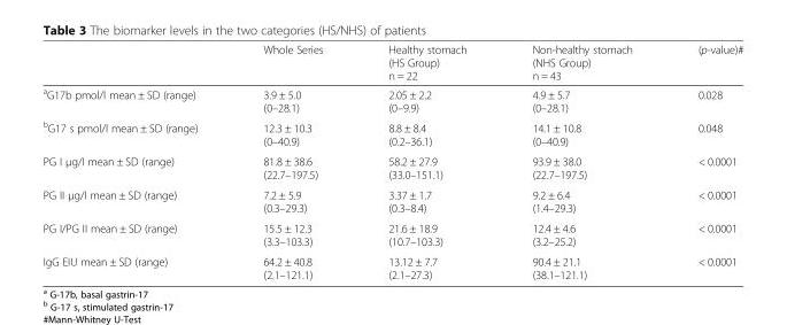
<table><thead><tr><td></td><td>Whole Series</td><td>Healthy stomach (HS Group) n = 22</td><td>Non-healthy stomach (NHS Group) n = 43</td><td>(p-value)#</td></tr></thead><tbody><tr><td><sup>a</sup>G17b pmol/l mean ± SD (range)</td><td>3.9 ± 5.0 (0–28.1)</td><td>2.05 ± 2.2 (0–9.9)</td><td>4.9 ± 5.7 (0–28.1)</td><td>0.028</td></tr><tr><td><sup>b</sup>G17 s pmol/l mean ± SD (range)</td><td>12.3 ± 10.3 (0–40.9)</td><td>8.8 ± 8.4 (0.2–36.1)</td><td>14.1 ± 10.8 (0–40.9)</td><td>0.048</td></tr><tr><td>PG I μg/I mean ± SD (range)</td><td>81.8 ± 38.6 (22.7–197.5)</td><td>58.2 ± 27.9 (33.0–151.1)</td><td>93.9 ± 38.0 (22.7–197.5)</td><td>&lt; 0.0001</td></tr><tr><td>PG II μg/I mean ± SD (range)</td><td>7.2 ± 5.9 (0.3–29.3)</td><td>3.37 ± 1.7 (0.3–8.4)</td><td>9.2 ± 6.4 (1.4–29.3)</td><td>&lt; 0.0001</td></tr><tr><td>PG I/PG II mean ± SD (range)</td><td>15.5 ± 12.3 (3.3–103.3)</td><td>21.6 ± 18.9 (10.7–103.3)</td><td>12.4 ± 4.6 (3.2–25.2)</td><td>&lt; 0.0001</td></tr><tr><td>IgG EIU mean ± SD (range)</td><td>64.2 ± 40.8 (2.1–121.1)</td><td>13.12 ± 7.7 (2.1–27.3)</td><td>90.4 ± 21.1 (38.1–121.1)</td><td>&lt; 0.0001</td></tr></tbody></table>